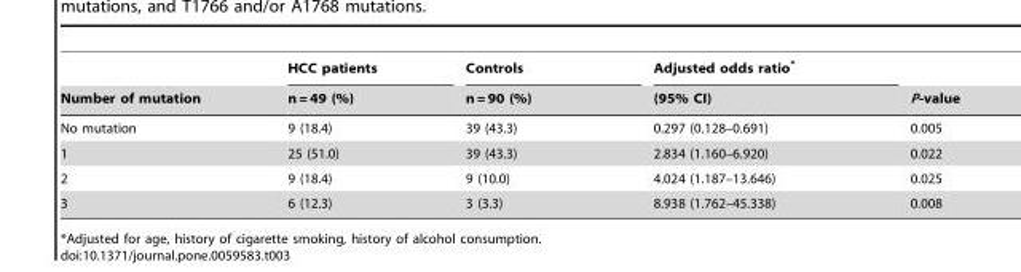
<table><thead><tr><td rowspan="2">Number of mutation</td><td rowspan="2">HCC patients n = 49 (%)</td><td rowspan="2">Controls n = 90 (%)</td><td rowspan="2">Adjusted odds ratio* (95% CI)</td><td rowspan="2">P-value</td></tr><tr></tr></thead><tbody><tr><td>No mutation</td><td>9 (18.4)</td><td>39 (43.3)</td><td>0.297 (0.128–0.691)</td><td>0.005</td></tr><tr><td>1</td><td>25 (51.0)</td><td>39 (43.3)</td><td>2.834 (1.160–6.920)</td><td>0.022</td></tr><tr><td>2</td><td>9 (18.4)</td><td>9 (10.0)</td><td>4.024 (1.187–13.646)</td><td>0.025</td></tr><tr><td>3</td><td>6 (12.3)</td><td>3 (3.3)</td><td>8.938 (1.762–45.338)</td><td>0.008</td></tr></tbody></table>